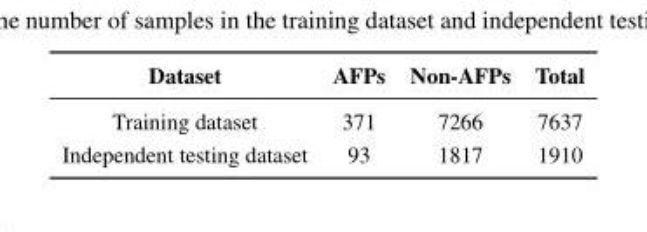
<table><thead><tr><td>Dataset</td><td>AFPs</td><td>Non-AFPs</td><td>Total</td></tr></thead><tbody><tr><td>Training dataset</td><td>371</td><td>7266</td><td>7637</td></tr><tr><td>Independent testing dataset</td><td>93</td><td>1817</td><td>1910</td></tr></tbody></table>